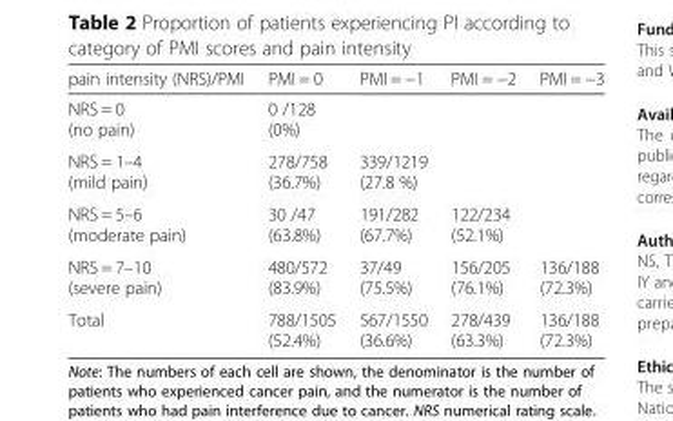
<table><thead><tr><td>pain intensity (NRS)/PMI</td><td>PMI = 0</td><td>PMI = −1</td><td>PMI = −2</td><td>PMI = −3</td></tr></thead><tbody><tr><td>NRS = 0 (no pain)</td><td>0 /128 (0%)</td><td></td><td></td><td></td></tr><tr><td>NRS = 1–4 (mild pain)</td><td>278/758 (36.7%)</td><td>339/1219 (27.8 %)</td><td></td><td></td></tr><tr><td>NRS = 5–6 (moderate pain)</td><td>30 /47 (63.8%)</td><td>191/282 (67.7%)</td><td>122/234 (52.1%)</td><td></td></tr><tr><td>NRS = 7–10 (severe pain)</td><td>480/572 (83.9%)</td><td>37/49 (75.5%)</td><td>156/205 (76.1%)</td><td>136/188 (72.3%)</td></tr><tr><td>Total</td><td>788/1505 (52.4%)</td><td>567/1550 (36.6%)</td><td>278/439 (63.3%)</td><td>136/188 (72.3%)</td></tr></tbody></table>